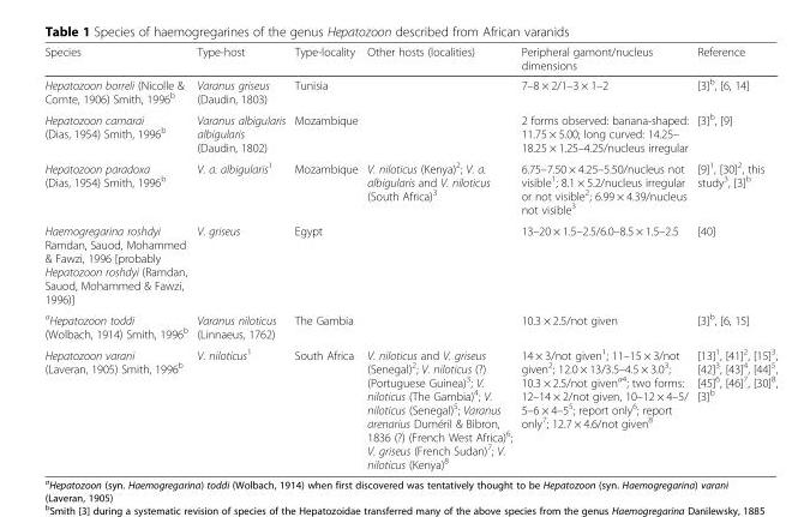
<table><thead><tr><td>Species</td><td>Type-host</td><td>Type-locality</td><td>Other hosts (localities)</td><td>Peripheral gamont/nucleus dimensions</td><td>Reference</td></tr></thead><tbody><tr><td>Hepatozoon borreli (Nicolle &amp; Comte, 1906) Smith, 1996<sup>b</sup></td><td>Varanus griseus (Daudin, 1803)</td><td>Tunisia</td><td></td><td>7–8 × 2/1–3 × 1–2</td><td>[3]<sup>b</sup>, [6, 14]</td></tr><tr><td>Hepatozoon camarai (Dias, 1954) Smith, 1996<sup>b</sup></td><td>Varanus albigularis albigularis (Daudin, 1802)</td><td>Mozambique</td><td></td><td>2 forms observed: banana-shaped: 11.75 × 5.00; long curved: 14.25– 18.25 × 1.25–4.25/nucleus irregular</td><td>[3]<sup>b</sup>, [9]</td></tr><tr><td>Hepatozoon paradoxa (Dias, 1954) Smith, 1996<sup>b</sup></td><td>V. a. albigularis<sup>1</sup></td><td>Mozambique</td><td>V. niloticus (Kenya)<sup>2</sup>; V. a. albigularis and V. niloticus (South Africa)<sup>3</sup></td><td>6.75–7.50 × 4.25–5.50/nucleus not visible<sup>1</sup>; 8.1 × 5.2/nucleus irregular or not visible<sup>2</sup>; 6.99 × 4.39/nucleus not visible<sup>3</sup></td><td>[9]<sup>1</sup>, [30]<sup>2</sup>, this study<sup>3</sup>, [3]<sup>b</sup></td></tr><tr><td>Haemogregarina roshdyi Ramdan, Sauod, Mohammed &amp; Fawzi, 1996 [probably Hepatozoon roshdyi (Ramdan, Sauod, Mohammed &amp; Fawzi, 1996)]</td><td>V. griseus</td><td>Egypt</td><td></td><td>13–20 × 1.5–2.5/6.0–8.5 × 1.5–2.5</td><td>[40]</td></tr><tr><td><sup>a</sup>Hepatozoon toddi (Wolbach, 1914) Smith, 1996<sup>b</sup></td><td>Varanus niloticus (Linnaeus, 1762)</td><td>The Gambia</td><td></td><td>10.3 × 2.5/not given</td><td>[3]<sup>b</sup>, [6, 15]</td></tr><tr><td>Hepatozoon varani (Laveran, 1905) Smith, 1996<sup>b</sup></td><td>V. niloticus<sup>1</sup></td><td>South Africa</td><td>V. niloticus and V. griseus (Senegal)<sup>2</sup>; V. niloticus (?) (Portuguese Guinea)<sup>3</sup>; V. niloticus (The Gambia)<sup>4</sup>; V. niloticus (Senegal)<sup>5</sup>; Varanus arenarius Duméril &amp; Bibron, 1836 (?) (French West Africa)<sup>6</sup>; V. griseus (French Sudan)<sup>7</sup>; V. niloticus (Kenya)<sup>8</sup></td><td>14 × 3/not given<sup>1</sup>; 11–15 × 3/not given<sup>2</sup>; 12.0 × 13/3.5–4.5 × 3.0<sup>3</sup>; 10.3 × 2.5/not given<sup>a4</sup>; two forms: 12–14 × 2/not given, 10–12 × 4–5/ 5–6 × 4–5<sup>5</sup>; report only<sup>6</sup>; report only<sup>7</sup>; 12.7 × 4.6/not given<sup>8</sup></td><td>[13]1, [41]2, [42]3, [43]4, [45]6, [46]7, [3]b</td></tr></tbody></table>